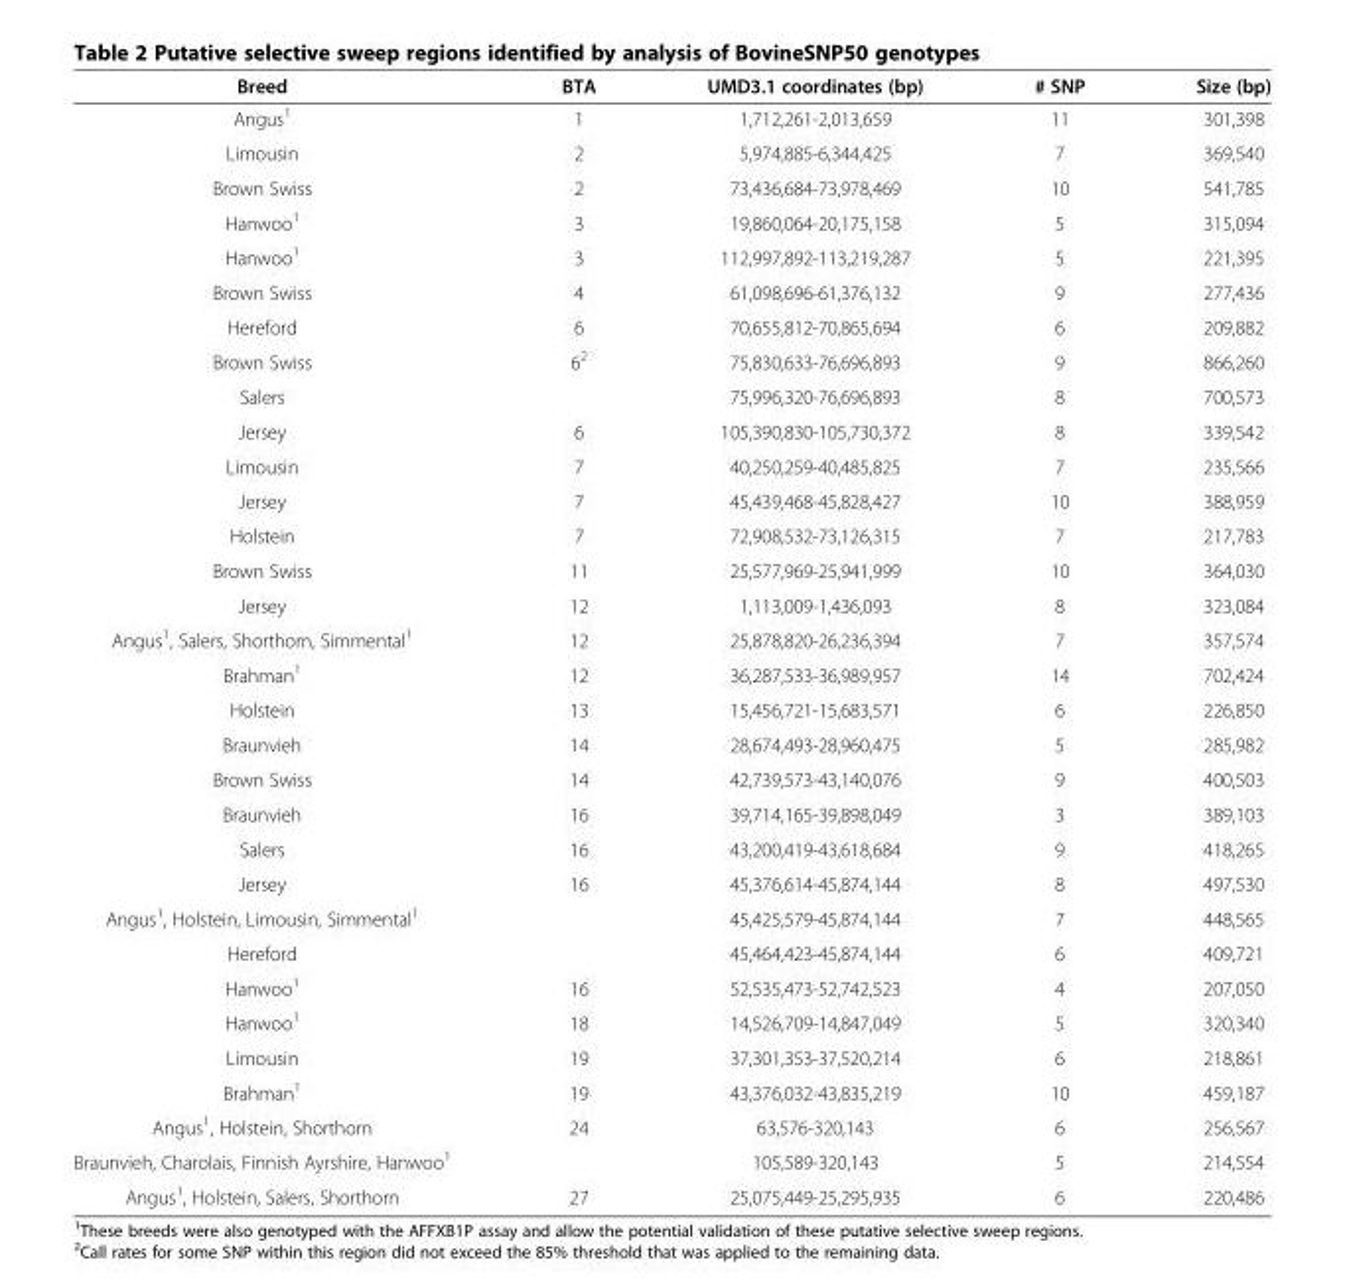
<table><thead><tr><td>Breed</td><td>BTA</td><td>UMD3.1 coordinates (bp)</td><td># SNP</td><td>Size (bp)</td></tr></thead><tbody><tr><td>Angus<sup>1</sup></td><td>1</td><td>1,712,261-2,013,659</td><td>11</td><td>301,398</td></tr><tr><td>Limousin</td><td>2</td><td>5,974,885-6,344,425</td><td>7</td><td>369,540</td></tr><tr><td>Brown Swiss</td><td>2</td><td>73,436,684-73,978,469</td><td>10</td><td>541,785</td></tr><tr><td>Hanwoo<sup>1</sup></td><td>3</td><td>19,860,064-20,175,158</td><td>5</td><td>315,094</td></tr><tr><td>Hanwoo<sup>1</sup></td><td>3</td><td>112,997,892-113,219,287</td><td>5</td><td>221,395</td></tr><tr><td>Brown Swiss</td><td>4</td><td>61,098,696-61,376,132</td><td>9</td><td>277,436</td></tr><tr><td>Hereford</td><td>6</td><td>70,655,812-70,865,694</td><td>6</td><td>209,882</td></tr><tr><td>Brown Swiss</td><td>6<sup>2</sup></td><td>75,830,633-76,696,893</td><td>9</td><td>866,260</td></tr><tr><td>Salers</td><td></td><td>75,996,320-76,696,893</td><td>8</td><td>700,573</td></tr><tr><td>Jersey</td><td>6</td><td>105,390,830-105,730,372</td><td>8</td><td>339,542</td></tr><tr><td>Limousin</td><td>7</td><td>40,250,259-40,485,825</td><td>7</td><td>235,566</td></tr><tr><td>Jersey</td><td>7</td><td>45,439,468-45,828,427</td><td>10</td><td>388,959</td></tr><tr><td>Holstein</td><td>7</td><td>72,908,532-73,126,315</td><td>7</td><td>217,783</td></tr><tr><td>Brown Swiss</td><td>11</td><td>25,577,969-25,941,999</td><td>10</td><td>364,030</td></tr><tr><td>Jersey</td><td>12</td><td>1,113,009-1,436,093</td><td>8</td><td>323,084</td></tr><tr><td>Angus<sup>1</sup>, Salers, Shorthorn, Simmental<sup>1</sup></td><td>12</td><td>25,878,820-26,236,394</td><td>7</td><td>357,574</td></tr><tr><td>Brahman<sup>1</sup></td><td>12</td><td>36,287,533-36,989,957</td><td>14</td><td>702,424</td></tr><tr><td>Holstein</td><td>13</td><td>15,456,721-15,683,571</td><td>6</td><td>226,850</td></tr><tr><td>Braunvieh</td><td>14</td><td>28,674,493-28,960,475</td><td>5</td><td>285,982</td></tr><tr><td>Brown Swiss</td><td>14</td><td>42,739,573-43,140,076</td><td>9</td><td>400,503</td></tr><tr><td>Braunvieh</td><td>16</td><td>39,714,165-39,898,049</td><td>3</td><td>389,103</td></tr><tr><td>Salers</td><td>16</td><td>43,200,419-43,618,684</td><td>9</td><td>418,265</td></tr><tr><td>Jersey</td><td>16</td><td>45,376,614-45,874,144</td><td>8</td><td>497,530</td></tr><tr><td>Angus<sup>1</sup>, Holstein, Limousin, Simmental<sup>1</sup></td><td></td><td>45,425,579-45,874,144</td><td>7</td><td>448,565</td></tr><tr><td>Hereford</td><td></td><td>45,464,423-45,874,144</td><td>6</td><td>409,721</td></tr><tr><td>Hanwoo<sup>1</sup></td><td>16</td><td>52,535,473-52,742,523</td><td>4</td><td>207,050</td></tr><tr><td>Hanwoo<sup>1</sup></td><td>18</td><td>14,526,709-14,847,049</td><td>5</td><td>320,340</td></tr><tr><td>Limousin</td><td>19</td><td>37,301,353-37,520,214</td><td>6</td><td>218,861</td></tr><tr><td>Brahman<sup>1</sup></td><td>19</td><td>43,376,032-43,835,219</td><td>10</td><td>459,187</td></tr><tr><td>Angus<sup>1</sup>, Holstein, Shorthorn</td><td>24</td><td>63,576-320,143</td><td>6</td><td>256,567</td></tr><tr><td>Braunvieh, Charolais, Finnish Ayrshire, Hanwoo<sup>1</sup></td><td></td><td>105,589-320,143</td><td>5</td><td>214,554</td></tr><tr><td>Angus<sup>1</sup>, Holstein, Salers, Shorthorn</td><td>27</td><td>25,075,449-25,295,935</td><td>6</td><td>220,486</td></tr></tbody></table>